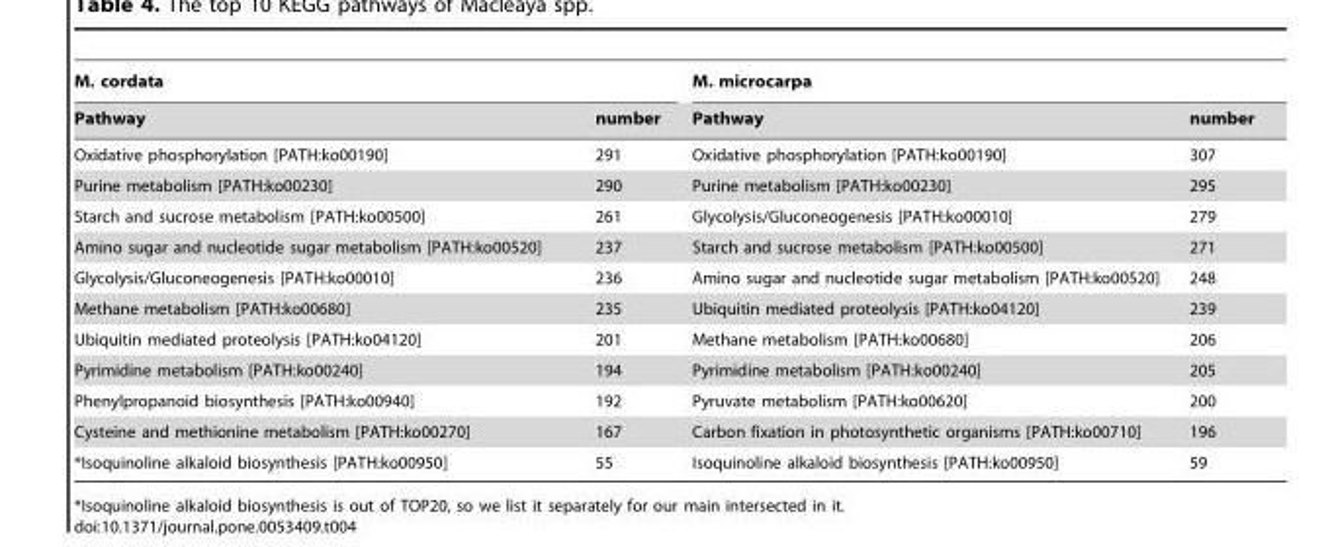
<table><thead><tr><td colspan="2">M. cordata</td><td colspan="2">M. microcarpa</td></tr><tr><td>Pathway</td><td>number</td><td>Pathway</td><td>number</td></tr></thead><tbody><tr><td>Oxidative phosphorylation [PATH:ko00190]</td><td>291</td><td>Oxidative phosphorylation [PATH:ko00190]</td><td>307</td></tr><tr><td>Purine metabolism [PATH:ko00230]</td><td>290</td><td>Purine metabolism [PATH:ko00230]</td><td>295</td></tr><tr><td>Starch and sucrose metabolism [PATH:ko00500]</td><td>261</td><td>Glycolysis/Gluconeogenesis [PATH:ko00010]</td><td>279</td></tr><tr><td>Amino sugar and nucleotide sugar metabolism [PATH:ko00520]</td><td>237</td><td>Starch and sucrose metabolism [PATH:ko00500]</td><td>271</td></tr><tr><td>Glycolysis/Gluconeogenesis [PATH:ko00010]</td><td>236</td><td>Amino sugar and nucleotide sugar metabolism [PATH:ko00520]</td><td>248</td></tr><tr><td>Methane metabolism [PATH:ko00680]</td><td>235</td><td>Ubiquitin mediated proteolysis [PATH:ko04120]</td><td>239</td></tr><tr><td>Ubiquitin mediated proteolysis [PATH:ko04120]</td><td>201</td><td>Methane metabolism [PATH:ko00680]</td><td>206</td></tr><tr><td>Pyrimidine metabolism [PATH:ko00240]</td><td>194</td><td>Pyrimidine metabolism [PATH:ko00240]</td><td>205</td></tr><tr><td>Phenylpropanoid biosynthesis [PATH:ko00940]</td><td>192</td><td>Pyruvate metabolism [PATH:ko00620]</td><td>200</td></tr><tr><td>Cysteine and methionine metabolism [PATH:ko00270]</td><td>167</td><td>Carbon fixation in photosynthetic organisms [PATH:ko00710]</td><td>196</td></tr><tr><td>*Isoquinoline alkaloid biosynthesis [PATH:ko00950]</td><td>55</td><td>Isoquinoline alkaloid biosynthesis [PATH:ko00950]</td><td>59</td></tr></tbody></table>